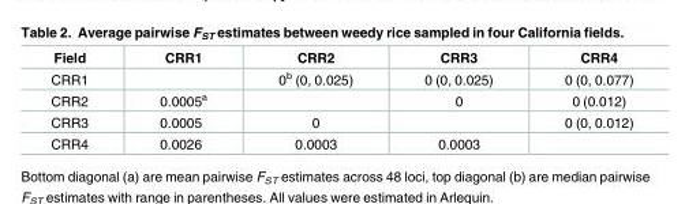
<table><thead><tr><td>Field</td><td>CRR1</td><td>CRR2</td><td>CRR3</td><td>CRR4</td></tr></thead><tbody><tr><td>CRR1</td><td></td><td>0<sup>b</sup> (0, 0.025)</td><td>0 (0, 0.025)</td><td>0 (0, 0.077)</td></tr><tr><td>CRR2</td><td>0.0005<sup>a</sup></td><td></td><td>0</td><td>0 (0.012)</td></tr><tr><td>CRR3</td><td>0.0005</td><td>0</td><td></td><td>0 (0, 0.012)</td></tr><tr><td>CRR4</td><td>0.0026</td><td>0.0003</td><td>0.0003</td><td></td></tr></tbody></table>